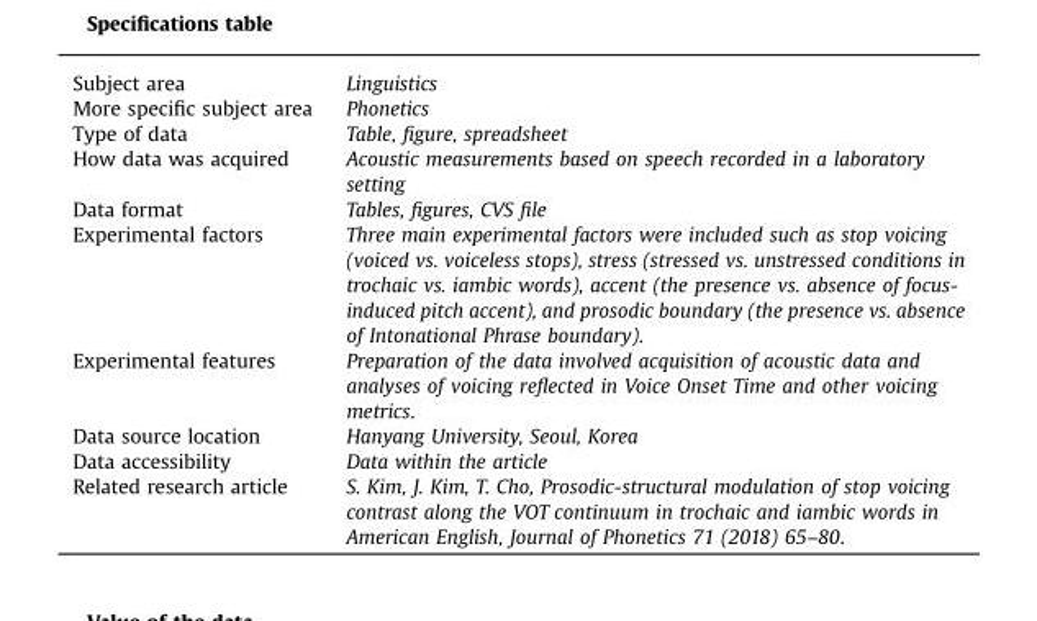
<table><tbody><tr><td>Subject area</td><td>Linguistics</td></tr><tr><td>More specific subject area</td><td>Phonetics</td></tr><tr><td>Type of data</td><td>Table, figure, spreadsheet</td></tr><tr><td>How data was acquired</td><td>Acoustic measurements based on speech recorded in a laboratory setting</td></tr><tr><td>Data format</td><td>Tables, figures, CVS file</td></tr><tr><td>Experimental factors</td><td>Three main experimental factors were included such as stop voicing (voiced vs. voiceless stops), stress (stressed vs. unstressed conditions in trochaic vs. iambic words), accent (the presence vs. absence of focus- induced pitch accent), and prosodic boundary (the presence vs. absence of Intonational Phrase boundary).</td></tr><tr><td>Experimental features</td><td>Preparation of the data involved acquisition of acoustic data and analyses of voicing reflected in Voice Onset Time and other voicing metrics.</td></tr><tr><td>Data source location</td><td>Hanyang University, Seoul, Korea</td></tr><tr><td>Data accessibility</td><td>Data within the article</td></tr><tr><td>Related research article</td><td>S. Kim, J. Kim, T. Cho, Prosodic-structural modulation of stop voicing contrast along the VOT continuum in trochaic and iambic words in American English, Journal of Phonetics 71 (2018) 65–80.</td></tr></tbody></table>